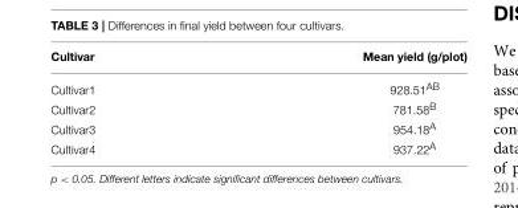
<table><thead><tr><td>Cultivar</td><td>Mean yield (g/plot)</td></tr></thead><tbody><tr><td>Cultivar1</td><td>928.51<sup>AB</sup></td></tr><tr><td>Cultivar2</td><td>781.58<sup>B</sup></td></tr><tr><td>Cultivar3</td><td>954.18<sup>A</sup></td></tr><tr><td>Cultivar4</td><td>937.22<sup>A</sup></td></tr></tbody></table>